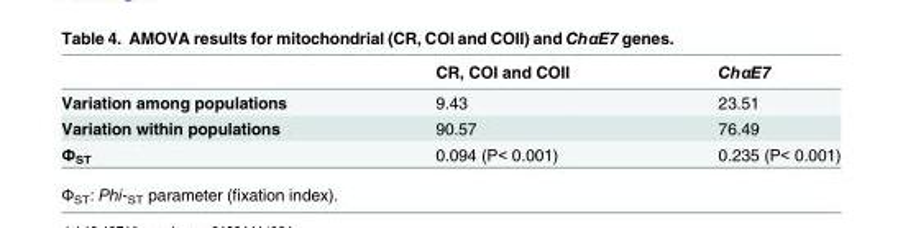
<table><thead><tr><td></td><td>CR, COI and COII</td><td>ChαE7</td></tr></thead><tbody><tr><td>Variation among populations</td><td>9.43</td><td>23.51</td></tr><tr><td>Variation within populations</td><td>90.57</td><td>76.49</td></tr><tr><td>Ф<sub>ST</sub></td><td>0.094 (P&lt; 0.001)</td><td>0.235 (P&lt; 0.001)</td></tr></tbody></table>